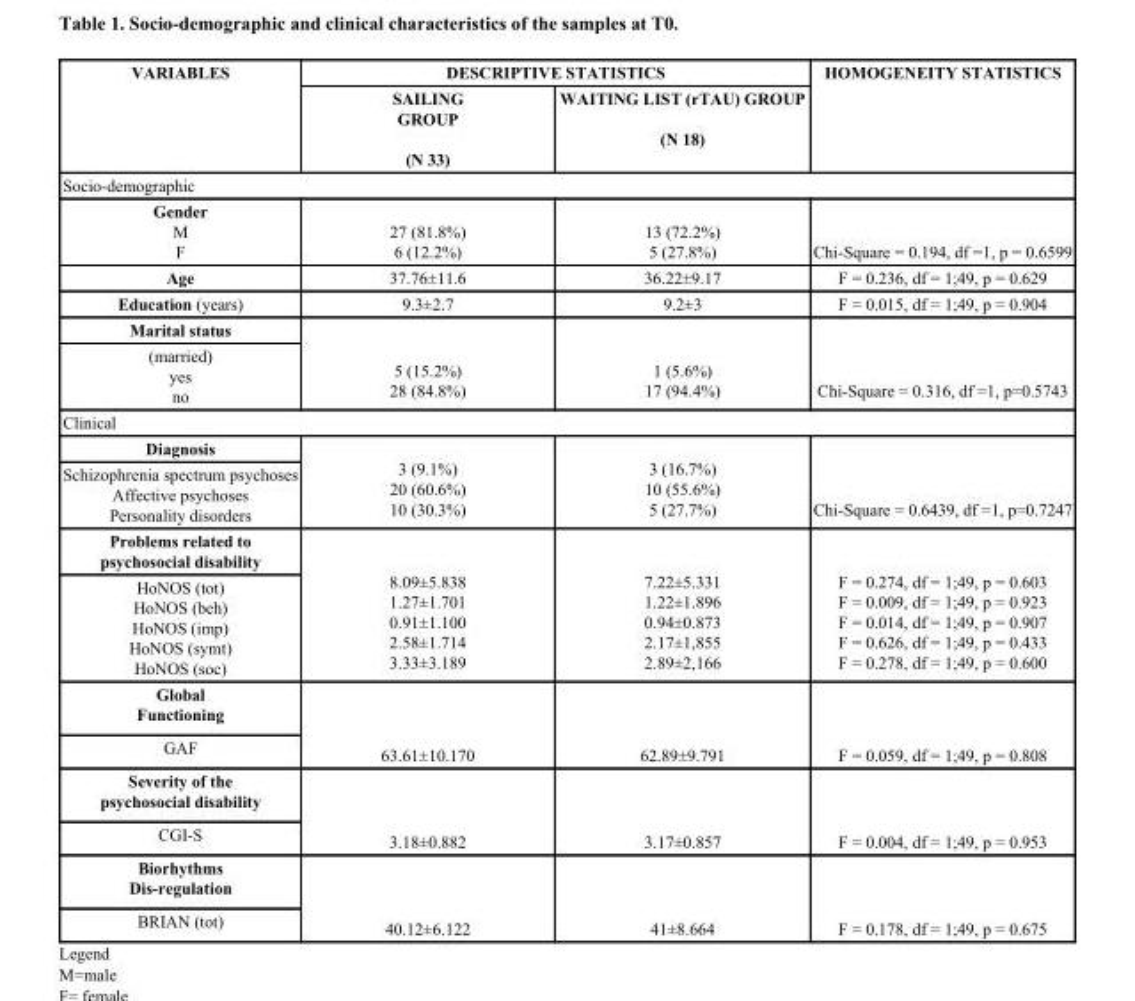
<table><thead><tr><td rowspan="2">VARIABLES</td><td colspan="2">DESCRIPTIVE STATISTICS</td><td rowspan="2">HOMOGENEITY STATISTICS</td></tr><tr><td>SAILING GROUP (N 33)</td><td>WAITING LIST (rTAU) GROUP (N 18)</td></tr></thead><tbody><tr><td colspan="4">Socio-demographic</td></tr><tr><td>Gender M F</td><td>27 (81.8%) 6 (12.2%)</td><td>13 (72.2%) 5 (27.8%)</td><td>Chi-Square = 0.194, df =1, p = 0.6599</td></tr><tr><td>Age</td><td>37.76±11.6</td><td>36.22±9.17</td><td>F = 0.236, df = 1;49, p = 0.629</td></tr><tr><td>Education (years)</td><td>9.3±2.7</td><td>9.2±3</td><td>F = 0.015, df = 1;49, p = 0.904</td></tr><tr><td>Marital status</td><td rowspan="2">5 (15.2%) 28 (84.8%)</td><td rowspan="2">1 (5.6%) 17 (94.4%)</td><td rowspan="2">Chi-Square = 0.316, df =1, p=0.5743</td></tr><tr><td>(married) yes no</td></tr><tr><td colspan="4">Clinical</td></tr><tr><td>Diagnosis</td><td rowspan="2">3 (9.1%) 20 (60.6%) 10 (30.3%)</td><td rowspan="2">3 (16.7%) 10 (55.6%) 5 (27.7%)</td><td rowspan="2">Chi-Square = 0.6439, df =1, p=0.7247</td></tr><tr><td>Schizophrenia spectrum psychoses Affective psychoses Personality disorders</td></tr><tr><td>Problems related to psychosocial disability</td><td rowspan="2">8.09±5.838 1.27±1.701 0.91±1.100 2.58±1.714 3.33±3.189</td><td rowspan="2">7.22±5.331 1.22±1.896 0.94±0.873 2.17±1,855 2.89±2,166</td><td rowspan="2">F = 0.274, df = 1;49, p = 0.603 F = 0.009, df = 1;49, p = 0.923 F = 0.014, df = 1;49, p = 0.907 F = 0.626, df = 1;49, p = 0.433 F = 0.278, df = 1;49, p = 0.600</td></tr><tr><td>HoNOS (tot) HoNOS (beh) HoNOS (imp) HoNOS (symt) HoNOS (soc)</td></tr><tr><td>Global Functioning</td><td rowspan="2">63.61±10.170</td><td rowspan="2">62.89±9.791</td><td rowspan="2">F = 0.059, df = 1;49, p = 0.808</td></tr><tr><td>GAF</td></tr><tr><td>Severity of the psychosocial disability</td><td rowspan="2">3.18±0.882</td><td rowspan="2">3.17±0.857</td><td rowspan="2">F = 0.004, df = 1;49, p = 0.953</td></tr><tr><td>CGI-S</td></tr><tr><td>Biorhythms Dis-regulation</td><td rowspan="2">40.12±6.122</td><td rowspan="2">41±8.664</td><td rowspan="2">F = 0.178, df = 1;49, p = 0.675</td></tr><tr><td>BRIAN (tot)</td></tr></tbody></table>